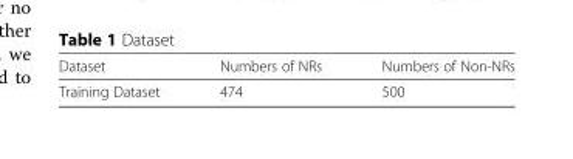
<table><thead><tr><td>Dataset</td><td>Numbers of NRs</td><td>Numbers of Non-NRs</td></tr></thead><tbody><tr><td>Training Dataset</td><td>474</td><td>500</td></tr></tbody></table>